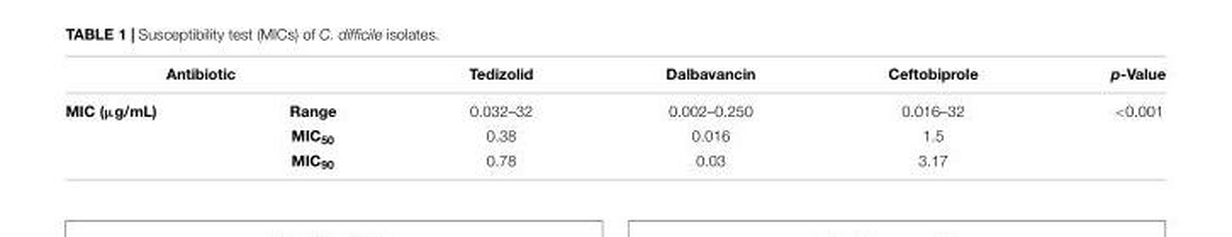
<table><thead><tr><td colspan="2">Antibiotic</td><td rowspan="2">Tedizolid 0.032–32</td><td rowspan="2">Dalbavancin 0.002–0.250</td><td rowspan="2">Ceftobiprole 0.016–32</td><td rowspan="2">p-Value &lt;0.001</td></tr><tr><td>MIC (µg/mL)</td><td>Range</td></tr></thead><tbody><tr><td></td><td>MIC<sub>50</sub></td><td>0.38</td><td>0.016</td><td>1.5</td><td></td></tr><tr><td></td><td>MIC<sub>90</sub></td><td>0.78</td><td>0.03</td><td>3.17</td><td></td></tr></tbody></table>